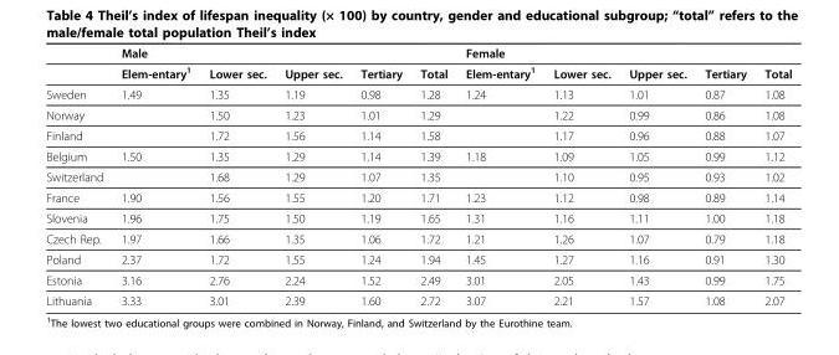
<table><thead><tr><td rowspan="2"></td><td colspan="5">Male</td><td colspan="5">Female</td></tr><tr><td>Elem-entary1</td><td>Lower sec.</td><td>Upper sec.</td><td>Tertiary</td><td>Total</td><td>Elem-entary1</td><td>Lower sec.</td><td>Upper sec.</td><td>Tertiary</td><td>Total</td></tr></thead><tbody><tr><td>Sweden</td><td>1.49</td><td>1.35</td><td>1.19</td><td>0.98</td><td>1.28</td><td>1.24</td><td>1.13</td><td>1.01</td><td>0.87</td><td>1.08</td></tr><tr><td>Norway</td><td></td><td>1.50</td><td>1.23</td><td>1.01</td><td>1.29</td><td></td><td>1.22</td><td>0.99</td><td>0.86</td><td>1.08</td></tr><tr><td>Finland</td><td></td><td>1.72</td><td>1.56</td><td>1.14</td><td>1.58</td><td></td><td>1.17</td><td>0.96</td><td>0.88</td><td>1.07</td></tr><tr><td>Belgium</td><td>1.50</td><td>1.35</td><td>1.29</td><td>1.14</td><td>1.39</td><td>1.18</td><td>1.09</td><td>1.05</td><td>0.99</td><td>1.12</td></tr><tr><td>Switzerland</td><td></td><td>1.68</td><td>1.29</td><td>1.07</td><td>1.35</td><td></td><td>1.10</td><td>0.95</td><td>0.93</td><td>1.02</td></tr><tr><td>France</td><td>1.90</td><td>1.56</td><td>1.55</td><td>1.20</td><td>1.71</td><td>1.23</td><td>1.12</td><td>0.98</td><td>0.89</td><td>1.14</td></tr><tr><td>Slovenia</td><td>1.96</td><td>1.75</td><td>1.50</td><td>1.19</td><td>1.65</td><td>1.31</td><td>1.16</td><td>1.11</td><td>1.00</td><td>1.18</td></tr><tr><td>Czech Rep.</td><td>1.97</td><td>1.66</td><td>1.35</td><td>1.06</td><td>1.72</td><td>1.21</td><td>1.26</td><td>1.07</td><td>0.79</td><td>1.18</td></tr><tr><td>Poland</td><td>2.37</td><td>1.72</td><td>1.55</td><td>1.24</td><td>1.94</td><td>1.45</td><td>1.27</td><td>1.16</td><td>0.91</td><td>1.30</td></tr><tr><td>Estonia</td><td>3.16</td><td>2.76</td><td>2.24</td><td>1.52</td><td>2.49</td><td>3.01</td><td>2.05</td><td>1.43</td><td>0.99</td><td>1.75</td></tr><tr><td>Lithuania</td><td>3.33</td><td>3.01</td><td>2.39</td><td>1.60</td><td>2.72</td><td>3.07</td><td>2.21</td><td>1.57</td><td>1.08</td><td>2.07</td></tr></tbody></table>